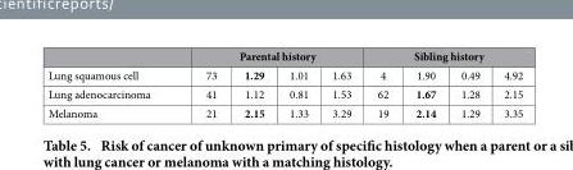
<table><thead><tr><td rowspan="2">Lung squamous cell</td><td colspan="4">Parental history</td><td colspan="4">Sibling history</td></tr><tr><td>73</td><td>1.29</td><td>1.01</td><td>1.63</td><td>4</td><td>1.90</td><td>0.49</td><td>4.92</td></tr></thead><tbody><tr><td>Lung adenocarcinoma</td><td>41</td><td>1.12</td><td>0.81</td><td>1.53</td><td>62</td><td>1.67</td><td>1.28</td><td>2.15</td></tr><tr><td>Melanoma</td><td>21</td><td>2.15</td><td>1.33</td><td>3.29</td><td>19</td><td>2.14</td><td>1.29</td><td>3.35</td></tr></tbody></table>